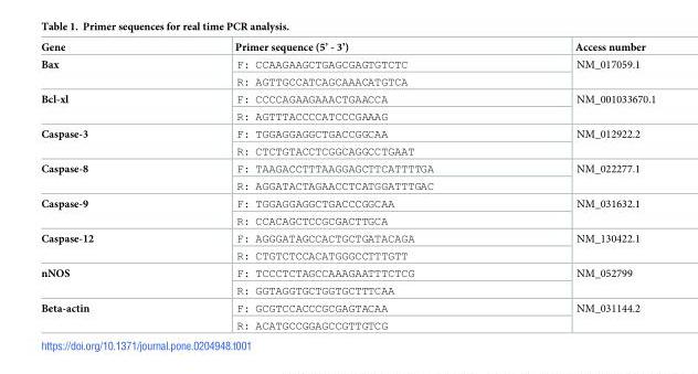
<table><thead><tr><td>Gene</td><td>Primer sequence (5’ - 3’)</td><td>Access number</td></tr></thead><tbody><tr><td rowspan="2">Bax</td><td>F: CCAAGAAGCTGAGCGAGTGTCTC</td><td rowspan="2">NM_017059.1</td></tr><tr><td>R: AGTTGCCATCAGCAAACATGTCA</td></tr><tr><td rowspan="2">Bcl-xl</td><td>F: CCCCAGAAGAAACTGAACCA</td><td rowspan="2">NM_001033670.1</td></tr><tr><td>R: AGTTTACCCCATCCCGAAAG</td></tr><tr><td rowspan="2">Caspase-3</td><td>F: TGGAGGAGGCTGACCGGCAA</td><td rowspan="2">NM_012922.2</td></tr><tr><td>R: CTCTGTACCTCGGCAGGCCTGAAT</td></tr><tr><td rowspan="2">Caspase-8</td><td>F: TAAGACCTTTAAGGAGCTTCATTTTGA</td><td rowspan="2">NM_022277.1</td></tr><tr><td>R: AGGATACTAGAACCTCATGGATTTGAC</td></tr><tr><td rowspan="2">Caspase-9</td><td>F: TGGAGGAGGCTGACCCGGCAA</td><td rowspan="2">NM_031632.1</td></tr><tr><td>R: CCACAGCTCCGCGACTTGCA</td></tr><tr><td rowspan="2">Caspase-12</td><td>F: AGGGATAGCCACTGCTGATACAGA</td><td rowspan="2">NM_130422.1</td></tr><tr><td>R: CTGTCTCCACATGGGCCTTTGTT</td></tr><tr><td rowspan="2">nNOS</td><td>F: TCCCTCTAGCCAAAGAATTTCTCG</td><td rowspan="2">NM_052799</td></tr><tr><td>R: GGTAGGTGCTGGTGCTTTCAA</td></tr><tr><td rowspan="2">Beta-actin</td><td>F: GCGTCCACCCGCGAGTACAA</td><td rowspan="2">NM_031144.2</td></tr><tr><td>R: ACATGCCGGAGCCGTTGTCG</td></tr></tbody></table>